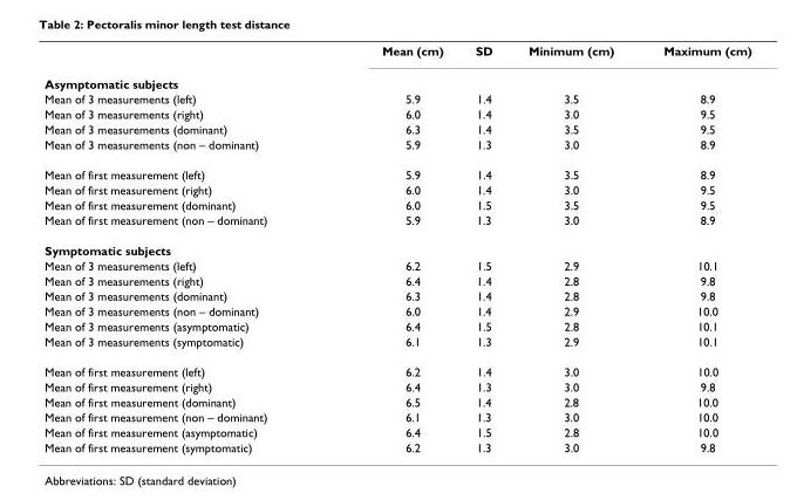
<table><thead><tr><td></td><td>Mean (cm)</td><td>SD</td><td>Minimum (cm)</td><td>Maximum (cm)</td></tr></thead><tbody><tr><td colspan="5">Asymptomatic subjects</td></tr><tr><td>Mean of 3 measurements (left)</td><td>5.9</td><td>1.4</td><td>3.5</td><td>8.9</td></tr><tr><td>Mean of 3 measurements (right)</td><td>6.0</td><td>1.4</td><td>3.0</td><td>9.5</td></tr><tr><td>Mean of 3 measurements (dominant)</td><td>6.3</td><td>1.4</td><td>3.5</td><td>9.5</td></tr><tr><td>Mean of 3 measurements (non – dominant)</td><td>5.9</td><td>1.3</td><td>3.0</td><td>8.9</td></tr><tr><td>Mean of first measurement (left)</td><td>5.9</td><td>1.4</td><td>3.5</td><td>8.9</td></tr><tr><td>Mean of first measurement (right)</td><td>6.0</td><td>1.4</td><td>3.0</td><td>9.5</td></tr><tr><td>Mean of first measurement (dominant)</td><td>6.0</td><td>1.5</td><td>3.5</td><td>9.5</td></tr><tr><td>Mean of first measurement (non – dominant)</td><td>5.9</td><td>1.3</td><td>3.0</td><td>8.9</td></tr><tr><td colspan="5">Symptomatic subjects</td></tr><tr><td>Mean of 3 measurements (left)</td><td>6.2</td><td>1.5</td><td>2.9</td><td>10.1</td></tr><tr><td>Mean of 3 measurements (right)</td><td>6.4</td><td>1.4</td><td>2.8</td><td>9.8</td></tr><tr><td>Mean of 3 measurements (dominant)</td><td>6.3</td><td>1.4</td><td>2.8</td><td>9.8</td></tr><tr><td>Mean of 3 measurements (non – dominant)</td><td>6.0</td><td>1.4</td><td>2.9</td><td>10.0</td></tr><tr><td>Mean of 3 measurements (asymptomatic)</td><td>6.4</td><td>1.5</td><td>2.8</td><td>10.1</td></tr><tr><td>Mean of 3 measurements (symptomatic)</td><td>6.1</td><td>1.3</td><td>2.9</td><td>10.1</td></tr><tr><td>Mean of first measurement (left)</td><td>6.2</td><td>1.4</td><td>3.0</td><td>10.0</td></tr><tr><td>Mean of first measurement (right)</td><td>6.4</td><td>1.3</td><td>3.0</td><td>9.8</td></tr><tr><td>Mean of first measurement (dominant)</td><td>6.5</td><td>1.4</td><td>2.8</td><td>10.0</td></tr><tr><td>Mean of first measurement (non – dominant)</td><td>6.1</td><td>1.3</td><td>3.0</td><td>10.0</td></tr><tr><td>Mean of first measurement (asymptomatic)</td><td>6.4</td><td>1.5</td><td>2.8</td><td>10.0</td></tr><tr><td>Mean of first measurement (symptomatic)</td><td>6.2</td><td>1.3</td><td>3.0</td><td>9.8</td></tr></tbody></table>